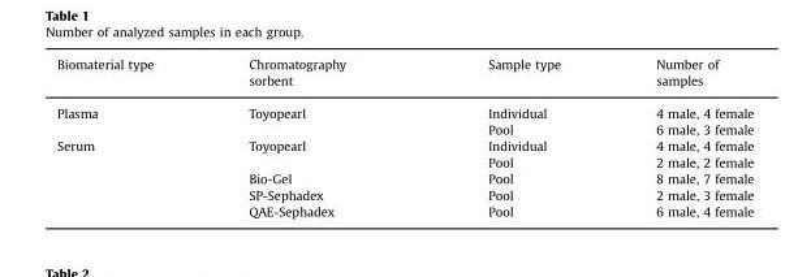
<table><thead><tr><td>Biomaterial type</td><td>Chromatography sorbent</td><td>Sample type</td><td>Number of samples</td></tr></thead><tbody><tr><td rowspan="2">Plasma</td><td rowspan="2">Toyopearl</td><td>Individual</td><td>4 male, 4 female</td></tr><tr><td>Pool</td><td>6 male, 3 female</td></tr><tr><td rowspan="5">Serum</td><td rowspan="2">Toyopearl</td><td>Individual</td><td>4 male, 4 female</td></tr><tr><td>Pool</td><td>2 male, 2 female</td></tr><tr><td>Bio-Gel</td><td>Pool</td><td>8 male, 7 female</td></tr><tr><td>SP-Sephadex</td><td>Pool</td><td>2 male, 3 female</td></tr><tr><td>QAE-Sephadex</td><td>Pool</td><td>6 male, 4 female</td></tr></tbody></table>